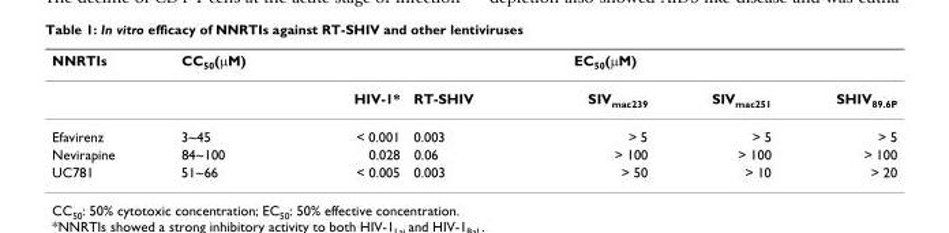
<table><thead><tr><td rowspan="2">NNRTIs</td><td rowspan="2">CC<sub>50</sub>(μM)</td><td colspan="5">EC<sub>50</sub>(μM)</td></tr><tr><td>HIV-1*</td><td>RT-SHIV</td><td>SIV<sub>mac239</sub></td><td>SIV<sub>mac251</sub></td><td>SHIV<sub>89.6P</sub></td></tr></thead><tbody><tr><td>Efavirenz</td><td>3~45</td><td>&lt; 0.001</td><td>0.003</td><td>&gt; 5</td><td>&gt; 5</td><td>&gt; 5</td></tr><tr><td>Nevirapine</td><td>84~100</td><td>0.028</td><td>0.06</td><td>&gt; 100</td><td>&gt; 100</td><td>&gt; 100</td></tr><tr><td>UC781</td><td>51~66</td><td>&lt; 0.005</td><td>0.003</td><td>&gt; 50</td><td>&gt; 10</td><td>&gt; 20</td></tr></tbody></table>